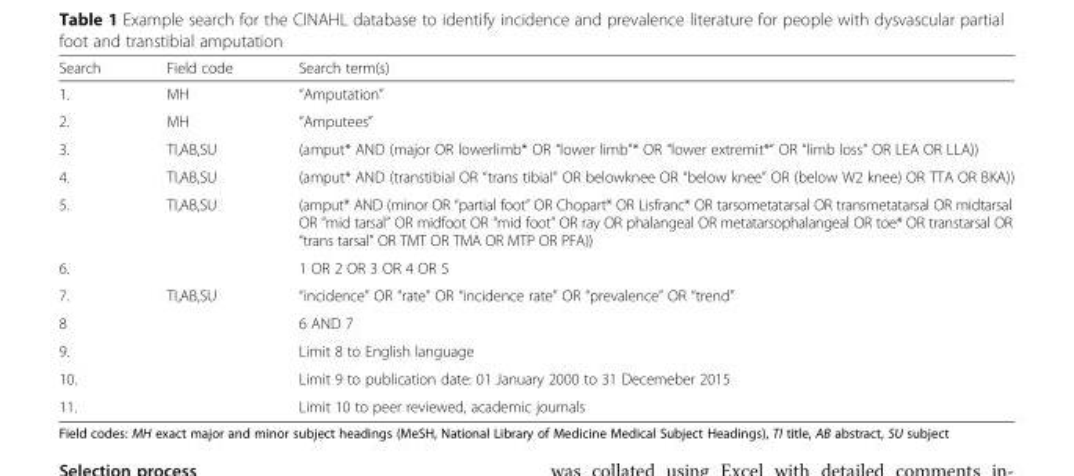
<table><thead><tr><td>Search</td><td>Field code</td><td>Search term(s)</td></tr></thead><tbody><tr><td>1.</td><td>MH</td><td>“Amputation”</td></tr><tr><td>2.</td><td>MH</td><td>“Amputees”</td></tr><tr><td>3.</td><td>TI,AB,SU</td><td>(amput* AND (major OR lowerlimb* OR “lower limb”* OR “lower extremit*” OR “limb loss” OR LEA OR LLA))</td></tr><tr><td>4.</td><td>TI,AB,SU</td><td>(amput* AND (transtibial OR “trans tibial” OR belowknee OR “below knee” OR (below W2 knee) OR TTA OR BKA))</td></tr><tr><td>5.</td><td>TI,AB,SU</td><td>(amput* AND (minor OR “partial foot” OR Chopart* OR Lisfranc* OR tarsometatarsal OR transmetatarsal OR midtarsal OR “mid tarsal” OR midfoot OR “mid foot” OR ray OR phalangeal OR metatarsophalangeal OR toe* OR transtarsal OR “trans tarsal” OR TMT OR TMA OR MTP OR PFA))</td></tr><tr><td>6.</td><td></td><td>1 OR 2 OR 3 OR 4 OR 5</td></tr><tr><td>7.</td><td>TI,AB,SU</td><td>“incidence” OR “rate” OR “incidence rate” OR “prevalence” OR “trend”</td></tr><tr><td>8</td><td></td><td>6 AND 7</td></tr><tr><td>9.</td><td></td><td>Limit 8 to English language</td></tr><tr><td>10.</td><td></td><td>Limit 9 to publication date: 01 January 2000 to 31 Decemeber 2015</td></tr><tr><td>11.</td><td></td><td>Limit 10 to peer reviewed, academic journals</td></tr></tbody></table>